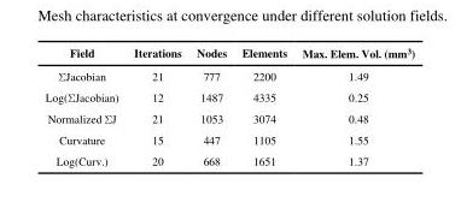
<table><thead><tr><td>Field</td><td>Iterations</td><td>Nodes</td><td>Elements</td><td>Max. Elem. Vol. (mm<sup>3</sup>)</td></tr></thead><tbody><tr><td>ΣJacobian</td><td>21</td><td>777</td><td>2200</td><td>1.49</td></tr><tr><td>Log(ΣJacobian)</td><td>12</td><td>1487</td><td>4335</td><td>0.25</td></tr><tr><td>Normalized ΣJ</td><td>21</td><td>1053</td><td>3074</td><td>0.48</td></tr><tr><td>Curvature</td><td>15</td><td>447</td><td>1105</td><td>1.55</td></tr><tr><td>Log(Curv.)</td><td>20</td><td>668</td><td>1651</td><td>1.37</td></tr></tbody></table>